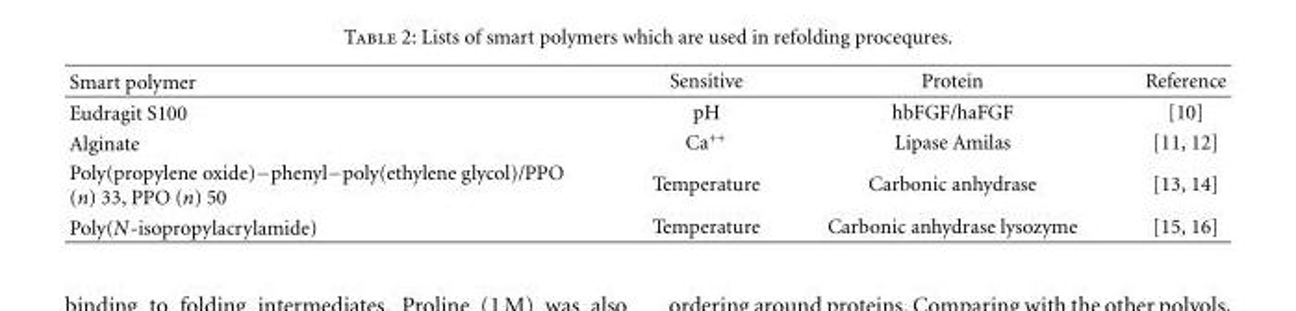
<table><thead><tr><td>Smart polymer</td><td>Sensitive</td><td>Protein</td><td>Reference</td></tr></thead><tbody><tr><td>Eudragit S100</td><td>pH</td><td>hbFGF/haFGF</td><td>[10]</td></tr><tr><td>Alginate</td><td>Ca<sup>++</sup></td><td>Lipase Amilas</td><td>[11, 12]</td></tr><tr><td>Poly(propylene oxide)−phenyl−poly(ethylene glycol)/PPO (n) 33, PPO (n) 50</td><td>Temperature</td><td>Carbonic anhydrase</td><td>[13, 14]</td></tr><tr><td>Poly(N-isopropylacrylamide)</td><td>Temperature</td><td>Carbonic anhydrase lysozyme</td><td>[15, 16]</td></tr></tbody></table>